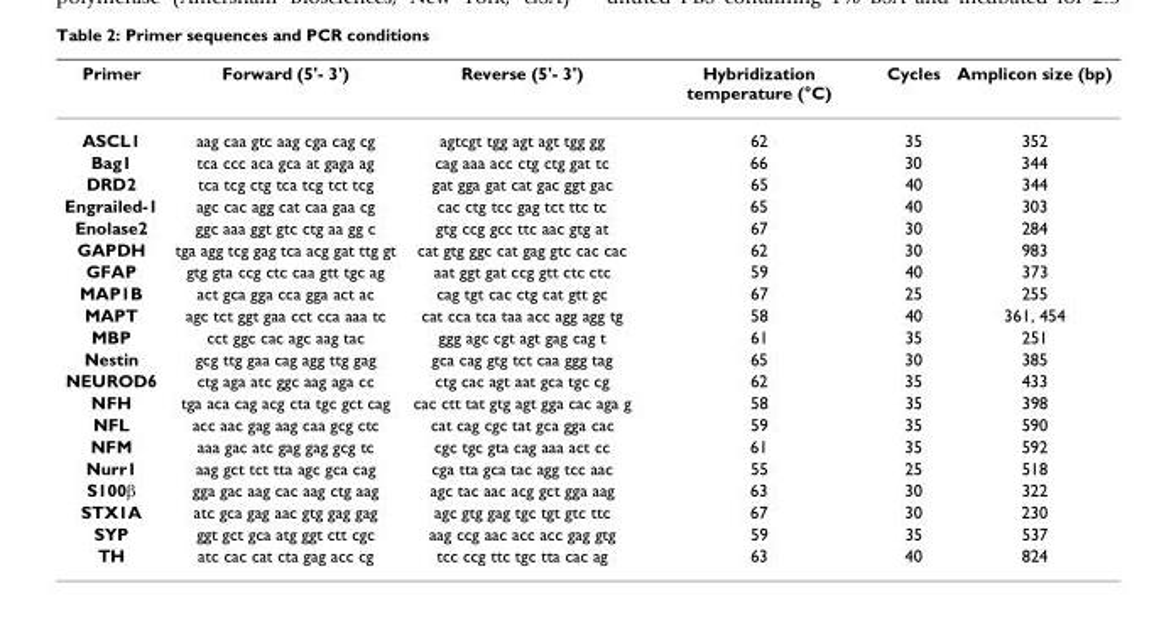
<table><thead><tr><td>Primer</td><td>Forward (5&#x27;- 3&#x27;)</td><td>Reverse (5&#x27;- 3&#x27;)</td><td>Hybridization temperature (°C)</td><td>Cycles</td><td>Amplicon size (bp)</td></tr></thead><tbody><tr><td>ASCL1</td><td>aag caa gtc aag cga cag cg</td><td>agtcgt tgg agt agt tgg gg</td><td>62</td><td>35</td><td>352</td></tr><tr><td>Bag1</td><td>tca ccc aca gca at gaga ag</td><td>cag aaa acc ctg ctg gat tc</td><td>66</td><td>30</td><td>344</td></tr><tr><td>DRD2</td><td>tca tcg ctg tca tcg tct tcg</td><td>gat gga gat cat gac ggt gac</td><td>65</td><td>40</td><td>344</td></tr><tr><td>Engrailed-1</td><td>agc cac agg cat caa gaa cg</td><td>cac ctg tcc gag tct ttc tc</td><td>65</td><td>40</td><td>303</td></tr><tr><td>Enolase2</td><td>ggc aaa ggt gtc ctg aa gg c</td><td>gtg ccg gcc ttc aac gtg at</td><td>67</td><td>30</td><td>284</td></tr><tr><td>GAPDH</td><td>tga agg tcg gag tca acg gat ttg gt</td><td>cat gtg ggc cat gag gtc cac cac</td><td>62</td><td>30</td><td>983</td></tr><tr><td>GFAP</td><td>gtg gta ccg ctc caa gtt tgc ag</td><td>aat ggt gat ccg gtt ctc ctc</td><td>59</td><td>40</td><td>373</td></tr><tr><td>MAP1B</td><td>act gca gga cca gga act ac</td><td>cag tgt cac ctg cat gtt gc</td><td>67</td><td>25</td><td>255</td></tr><tr><td>MAPT</td><td>agc tct ggt gaa cct cca aaa tc</td><td>cat cca tca taa acc agg agg tg</td><td>58</td><td>40</td><td>361, 454</td></tr><tr><td>MBP</td><td>cct ggc cac agc aag tac</td><td>ggg agc cgt agt gag cag t</td><td>61</td><td>35</td><td>251</td></tr><tr><td>Nestin</td><td>gcg ttg gaa cag agg ttg gag</td><td>gca cag gtg tct caa ggg tag</td><td>65</td><td>30</td><td>385</td></tr><tr><td>NEUROD6</td><td>ctg aga atc ggc aag aga cc</td><td>ctg cac agt aat gca tgc cg</td><td>62</td><td>35</td><td>433</td></tr><tr><td>NFH</td><td>tga aca cag acg cta tgc gct cag</td><td>cac ctt tat gtg agt gga cac aga g</td><td>58</td><td>35</td><td>398</td></tr><tr><td>NFL</td><td>acc aac gag aag caa gcg ctc</td><td>cat cag cgc tat gca gga cac</td><td>59</td><td>35</td><td>590</td></tr><tr><td>NFM</td><td>aaa gac atc gag gag gcg tc</td><td>cgc tgc gta cag aaa act cc</td><td>61</td><td>35</td><td>592</td></tr><tr><td>Nurr1</td><td>aag gct tct tta agc gca cag</td><td>cga tta gca tac agg tcc aac</td><td>55</td><td>25</td><td>518</td></tr><tr><td>S100β</td><td>gga gac aag cac aag ctg aag</td><td>agc tac aac acg gct gga aag</td><td>63</td><td>30</td><td>322</td></tr><tr><td>STX1A</td><td>atc gca gag aac gtg gag gag</td><td>agc gtg gag tgc tgt gtc ttc</td><td>67</td><td>30</td><td>230</td></tr><tr><td>SYP</td><td>ggt gct gca atg ggt ctt cgc</td><td>aag ccg aac acc acc gag gtg</td><td>59</td><td>35</td><td>537</td></tr><tr><td>TH</td><td>atc cac cat cta gag acc cg</td><td>tcc ccg ttc tgc tta cac ag</td><td>63</td><td>40</td><td>824</td></tr></tbody></table>